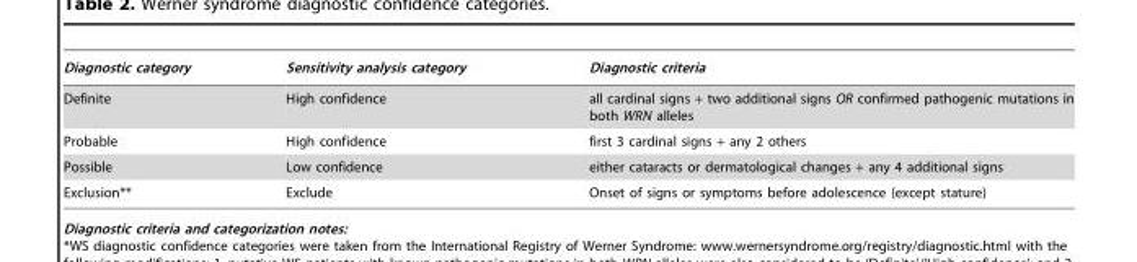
<table><thead><tr><td>Diagnostic category</td><td>Sensitivity analysis category</td><td>Diagnostic criteria</td></tr></thead><tbody><tr><td>Definite</td><td>High confidence</td><td>all cardinal signs + two additional signs OR confirmed pathogenic mutations in both WRN alleles</td></tr><tr><td>Probable</td><td>High confidence</td><td>first 3 cardinal signs + any 2 others</td></tr><tr><td>Possible</td><td>Low confidence</td><td>either cataracts or dermatological changes + any 4 additional signs</td></tr><tr><td>Exclusion**</td><td>Exclude</td><td>Onset of signs or symptoms before adolescence (except stature)</td></tr></tbody></table>